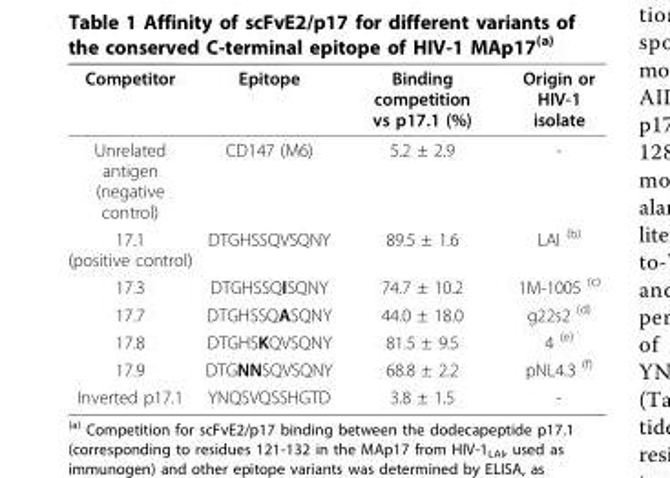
<table><thead><tr><td>Competitor</td><td>Epitope</td><td>Binding competition vs p17.1 (%)</td><td>Origin or HIV-1 isolate</td></tr></thead><tbody><tr><td>Unrelated antigen (negative control)</td><td>CD147 (M6)</td><td>5.2 ± 2.9</td><td>-</td></tr><tr><td>17.1 (positive control)</td><td>DTGHSSQVSQNY</td><td>89.5 ± 1.6</td><td>LAI <sup>(b)</sup></td></tr><tr><td>17.3</td><td>DTGHSSQISQNY</td><td>74.7 ± 10.2</td><td>1M-1005 <sup>(c)</sup></td></tr><tr><td>17.7</td><td>DTGHSSQASQNY</td><td>44.0 ± 18.0</td><td>g22s2 <sup>(d)</sup></td></tr><tr><td>17.8</td><td>DTGHSKQVSQNY</td><td>81.5 ± 9.5</td><td>4 <sup>(e)</sup></td></tr><tr><td>17.9</td><td>DTGNNSQVSQNY</td><td>68.8 ± 2.2</td><td>pNL4.3 <sup>(f)</sup></td></tr><tr><td>Inverted p17.1</td><td>YNQSVQSSHGTD</td><td>3.8 ± 1.5</td><td>-</td></tr></tbody></table>